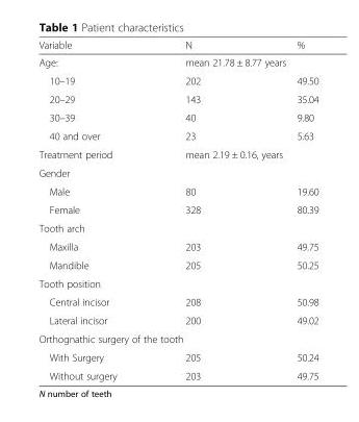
<table><thead><tr><td>Variable</td><td>N</td><td>%</td></tr></thead><tbody><tr><td>Age:</td><td colspan="2">mean 21.78 ± 8.77 years</td></tr><tr><td>10–19</td><td>202</td><td>49.50</td></tr><tr><td>20–29</td><td>143</td><td>35.04</td></tr><tr><td>30–39</td><td>40</td><td>9.80</td></tr><tr><td>40 and over</td><td>23</td><td>5.63</td></tr><tr><td>Treatment period</td><td colspan="2">mean 2.19 ± 0.16, years</td></tr><tr><td colspan="3">Gender</td></tr><tr><td>Male</td><td>80</td><td>19.60</td></tr><tr><td>Female</td><td>328</td><td>80.39</td></tr><tr><td colspan="3">Tooth arch</td></tr><tr><td>Maxilla</td><td>203</td><td>49.75</td></tr><tr><td>Mandible</td><td>205</td><td>50.25</td></tr><tr><td colspan="3">Tooth position</td></tr><tr><td>Central incisor</td><td>208</td><td>50.98</td></tr><tr><td>Lateral incisor</td><td>200</td><td>49.02</td></tr><tr><td colspan="3">Orthognathic surgery of the tooth</td></tr><tr><td>With Surgery</td><td>205</td><td>50.24</td></tr><tr><td>Without surgery</td><td>203</td><td>49.75</td></tr></tbody></table>